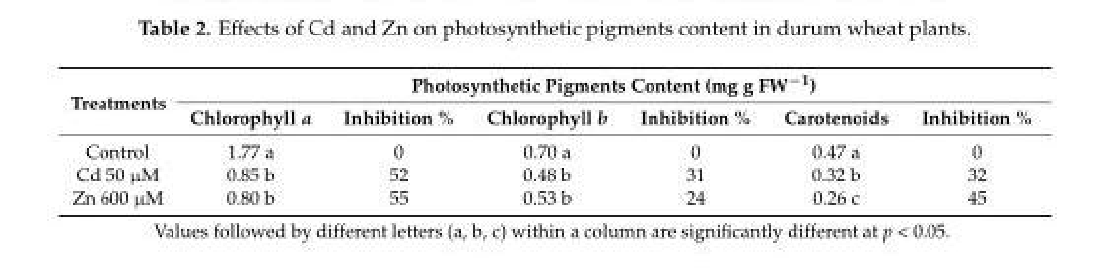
<table><thead><tr><td rowspan="2">Treatments</td><td colspan="6">Photosynthetic Pigments Content (mg g FW<sup>−1</sup>)</td></tr><tr><td>Chlorophyll a</td><td>Inhibition %</td><td>Chlorophyll b</td><td>Inhibition %</td><td>Carotenoids</td><td>Inhibition %</td></tr></thead><tbody><tr><td>Control</td><td>1.77 a</td><td>0</td><td>0.70 a</td><td>0</td><td>0.47 a</td><td>0</td></tr><tr><td>Cd 50 µM</td><td>0.85 b</td><td>52</td><td>0.48 b</td><td>31</td><td>0.32 b</td><td>32</td></tr><tr><td>Zn 600 µM</td><td>0.80 b</td><td>55</td><td>0.53 b</td><td>24</td><td>0.26 c</td><td>45</td></tr></tbody></table>